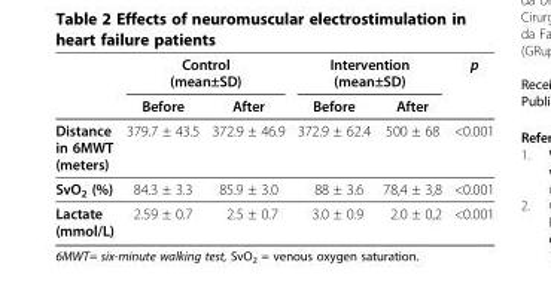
<table><thead><tr><td rowspan="2"></td><td colspan="2">Control (mean±SD)</td><td colspan="2">Intervention (mean±SD)</td><td rowspan="2">p</td></tr><tr><td>Before</td><td>After</td><td>Before</td><td>After</td></tr></thead><tbody><tr><td>Distance in 6MWT (meters)</td><td>379.7 ± 43.5</td><td>372.9 ± 46.9</td><td>372.9 ± 62.4</td><td>500 ± 68</td><td>&lt;0.001</td></tr><tr><td>SvO<sub>2</sub> (%)</td><td>84.3 ± 3.3</td><td>85.9 ± 3.0</td><td>88 ± 3.6</td><td>78,4 ± 3,8</td><td>&lt;0.001</td></tr><tr><td>Lactate (mmol/L)</td><td>2.59 ± 0.7</td><td>2.5 ± 0.7</td><td>3.0 ± 0.9</td><td>2.0 ± 0,2</td><td>&lt;0.001</td></tr></tbody></table>